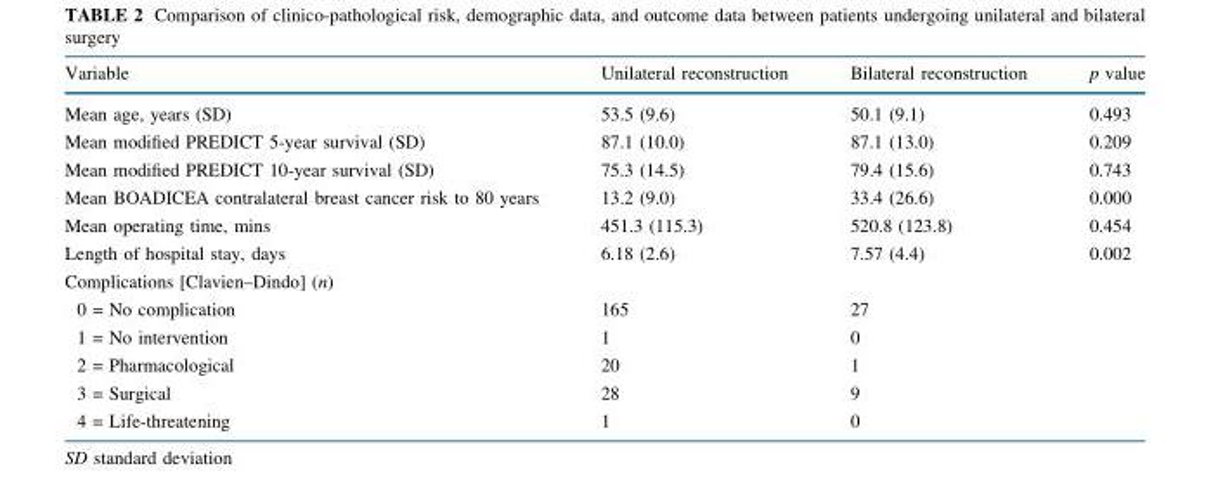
<table><thead><tr><td>Variable</td><td>Unilateral reconstruction</td><td>Bilateral reconstruction</td><td>p value</td></tr></thead><tbody><tr><td>Mean age, years (SD)</td><td>53.5 (9.6)</td><td>50.1 (9.1)</td><td>0.493</td></tr><tr><td>Mean modified PREDICT 5-year survival (SD)</td><td>87.1 (10.0)</td><td>87.1 (13.0)</td><td>0.209</td></tr><tr><td>Mean modified PREDICT 10-year survival (SD)</td><td>75.3 (14.5)</td><td>79.4 (15.6)</td><td>0.743</td></tr><tr><td>Mean BOADICEA contralateral breast cancer risk to 80 years</td><td>13.2 (9.0)</td><td>33.4 (26.6)</td><td>0.000</td></tr><tr><td>Mean operating time, mins</td><td>451.3 (115.3)</td><td>520.8 (123.8)</td><td>0.454</td></tr><tr><td>Length of hospital stay, days</td><td>6.18 (2.6)</td><td>7.57 (4.4)</td><td>0.002</td></tr><tr><td colspan="4">Complications [Clavien–Dindo] (n)</td></tr><tr><td>0 = No complication</td><td>165</td><td>27</td><td></td></tr><tr><td>1 = No intervention</td><td>1</td><td>0</td><td></td></tr><tr><td>2 = Pharmacological</td><td>20</td><td>1</td><td></td></tr><tr><td>3 = Surgical</td><td>28</td><td>9</td><td></td></tr><tr><td>4 = Life-threatening</td><td>1</td><td>0</td><td></td></tr></tbody></table>